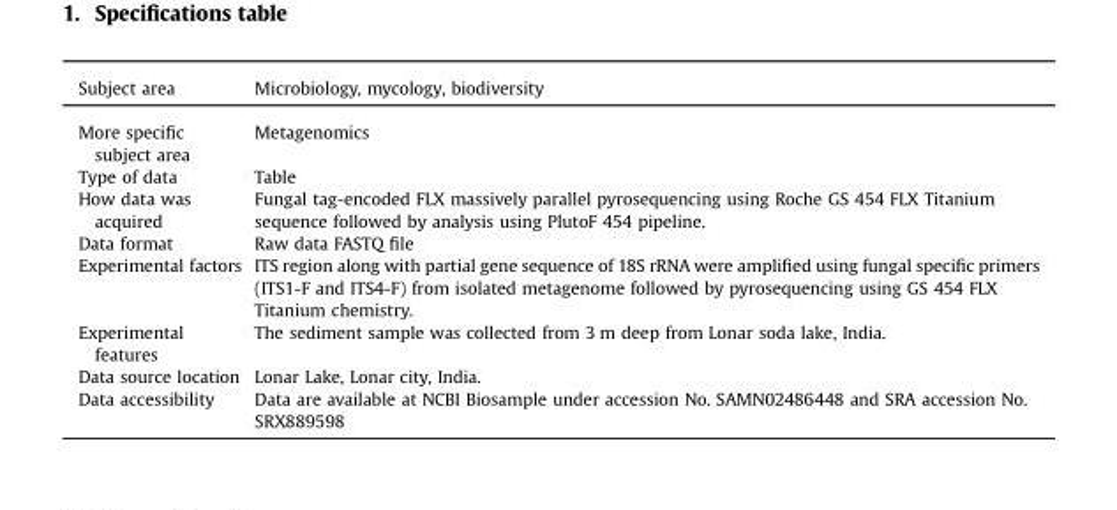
<table><thead><tr><td>Subject area</td><td>Microbiology, mycology, biodiversity</td></tr></thead><tbody><tr><td>More specific subject area</td><td>Metagenomics</td></tr><tr><td>Type of data</td><td>Table</td></tr><tr><td>How data was acquired</td><td>Fungal tag-encoded FLX massively parallel pyrosequencing using Roche GS 454 FLX Titanium sequence followed by analysis using PlutoF 454 pipeline.</td></tr><tr><td>Data format</td><td>Raw data FASTQ file</td></tr><tr><td>Experimental factors</td><td>ITS region along with partial gene sequence of 18S rRNA were amplified using fungal specific primers (ITS1-F and ITS4-F) from isolated metagenome followed by pyrosequencing using GS 454 FLX Titanium chemistry.</td></tr><tr><td>Experimental features</td><td>The sediment sample was collected from 3 m deep from Lonar soda lake, India.</td></tr><tr><td>Data source location</td><td>Lonar Lake, Lonar city, India.</td></tr><tr><td>Data accessibility</td><td>Data are available at NCBI Biosample under accession No. SAMN02486448 and SRA accession No. SRX889598</td></tr></tbody></table>